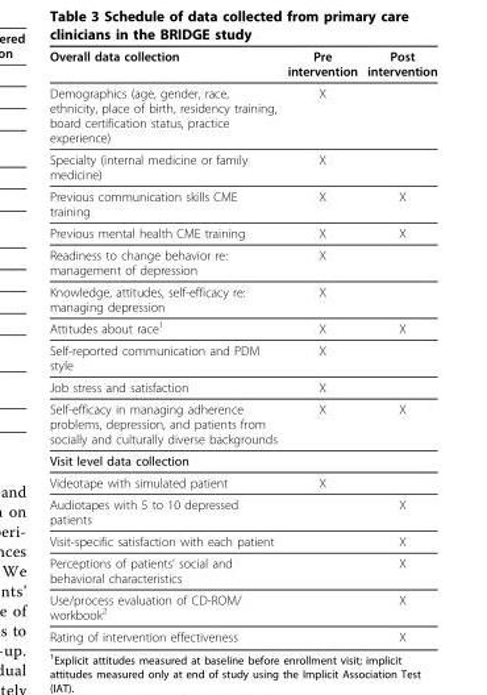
<table><thead><tr><td>Overall data collection</td><td>Pre intervention</td><td>Post intervention</td></tr></thead><tbody><tr><td>Demographics (age, gender, race, ethnicity, place of birth, residency training, board certification status, practice experience)</td><td>X</td><td></td></tr><tr><td>Specialty (internal medicine or family medicine)</td><td>X</td><td></td></tr><tr><td>Previous communication skills CME training</td><td>X</td><td>X</td></tr><tr><td>Previous mental health CME training</td><td>X</td><td>X</td></tr><tr><td>Readiness to change behavior re: management of depression</td><td>X</td><td></td></tr><tr><td>Knowledge, attitudes, self-efficacy re: managing depression</td><td>X</td><td></td></tr><tr><td>Attitudes about race1</td><td>X</td><td>X</td></tr><tr><td>Self-reported communication and PDM style</td><td>X</td><td></td></tr><tr><td>Job stress and satisfaction</td><td>X</td><td></td></tr><tr><td>Self-efficacy in managing adherence problems, depression, and patients from socially and culturally diverse backgrounds</td><td>X</td><td>X</td></tr><tr><td colspan="3">Visit level data collection</td></tr><tr><td>Videotape with simulated patient</td><td>X</td><td></td></tr><tr><td>Audiotapes with 5 to 10 depressed patients</td><td></td><td>X</td></tr><tr><td>Visit-specific satisfaction with each patient</td><td></td><td>X</td></tr><tr><td>Perceptions of patients’ social and behavioral characteristics</td><td></td><td>X</td></tr><tr><td>Use/process evaluation of CD-ROM/ workbook2</td><td></td><td>X</td></tr><tr><td>Rating of intervention effectiveness</td><td></td><td>X</td></tr></tbody></table>